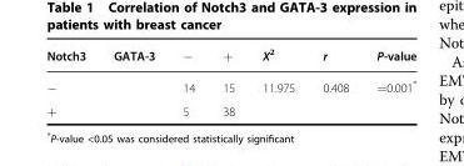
<table><thead><tr><td>Notch3</td><td>GATA-3</td><td>−</td><td>+</td><td>X<sup>2</sup></td><td>r</td><td>P-value</td></tr></thead><tbody><tr><td>−</td><td></td><td>14</td><td>15</td><td rowspan="2">11.975</td><td rowspan="2">0.408</td><td rowspan="2">=0.001*</td></tr><tr><td>+</td><td></td><td>5</td><td>38</td></tr></tbody></table>